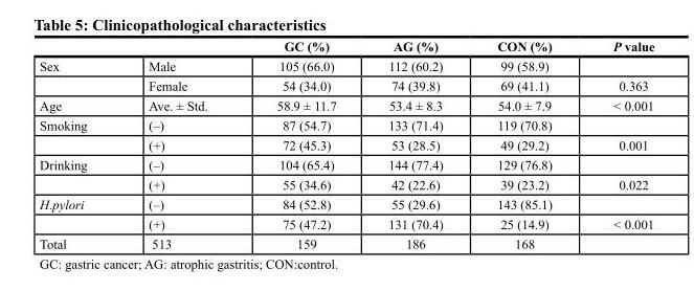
<table><thead><tr><td></td><td></td><td>GC (%)</td><td>AG (%)</td><td>CON (%)</td><td>P value</td></tr></thead><tbody><tr><td rowspan="2">Sex</td><td>Male</td><td>105 (66.0)</td><td>112 (60.2)</td><td>99 (58.9)</td><td></td></tr><tr><td>Female</td><td>54 (34.0)</td><td>74 (39.8)</td><td>69 (41.1)</td><td>0.363</td></tr><tr><td>Age</td><td>Ave. ± Std.</td><td>58.9 ± 11.7</td><td>53.4 ± 8.3</td><td>54.0 ± 7.9</td><td>&lt; 0.001</td></tr><tr><td rowspan="2">Smoking</td><td>(–)</td><td>87 (54.7)</td><td>133 (71.4)</td><td>119 (70.8)</td><td></td></tr><tr><td>(+)</td><td>72 (45.3)</td><td>53 (28.5)</td><td>49 (29.2)</td><td>0.001</td></tr><tr><td rowspan="2">Drinking</td><td>(–)</td><td>104 (65.4)</td><td>144 (77.4)</td><td>129 (76.8)</td><td></td></tr><tr><td>(+)</td><td>55 (34.6)</td><td>42 (22.6)</td><td>39 (23.2)</td><td>0.022</td></tr><tr><td rowspan="2">H.pylori</td><td>(–)</td><td>84 (52.8)</td><td>55 (29.6)</td><td>143 (85.1)</td><td></td></tr><tr><td>(+)</td><td>75 (47.2)</td><td>131 (70.4)</td><td>25 (14.9)</td><td>&lt; 0.001</td></tr><tr><td>Total</td><td>513</td><td>159</td><td>186</td><td>168</td><td></td></tr></tbody></table>